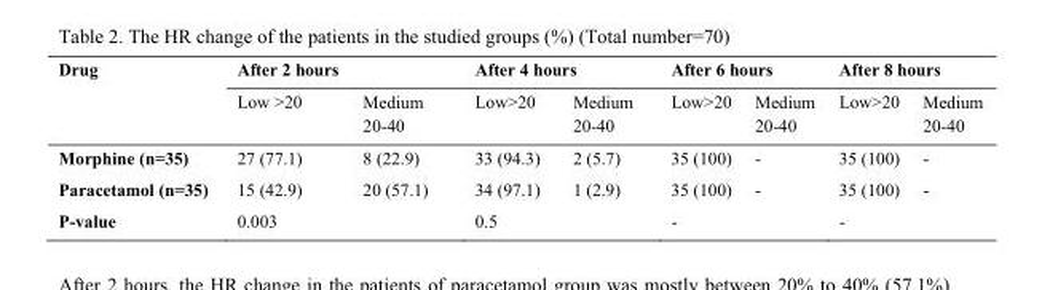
<table><thead><tr><td rowspan="2">Drug</td><td colspan="2">After 2 hours</td><td colspan="2">After 4 hours</td><td colspan="2">After 6 hours</td><td colspan="2">After 8 hours</td></tr><tr><td>Low &gt;20</td><td>Medium 20-40</td><td>Low&gt;20</td><td>Medium 20-40</td><td>Low&gt;20</td><td>Medium 20-40</td><td>Low&gt;20</td><td>Medium 20-40</td></tr></thead><tbody><tr><td>Morphine (n=35)</td><td>27 (77.1)</td><td>8 (22.9)</td><td>33 (94.3)</td><td>2 (5.7)</td><td>35 (100)</td><td>-</td><td>35 (100)</td><td>-</td></tr><tr><td>Paracetamol (n=35)</td><td>15 (42.9)</td><td>20 (57.1)</td><td>34 (97.1)</td><td>1 (2.9)</td><td>35 (100)</td><td>-</td><td>35 (100)</td><td>-</td></tr><tr><td>P-value</td><td colspan="2">0.003</td><td colspan="2">0.5</td><td colspan="2">-</td><td colspan="2">-</td></tr></tbody></table>